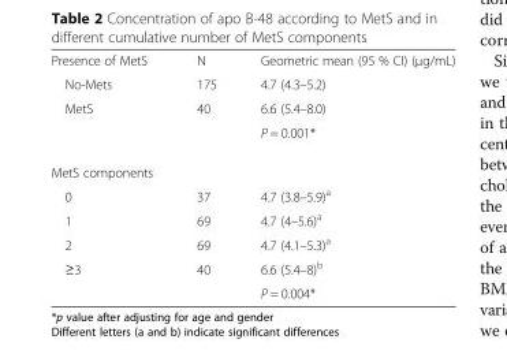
<table><tbody><tr><td>Presence of MetS</td><td>N</td><td>Geometric mean (95 % CI) (μg/mL)</td></tr><tr><td>No-Mets</td><td>175</td><td>4.7 (4.3–5.2)</td></tr><tr><td rowspan="2">MetS</td><td>40</td><td>6.6 (5.4–8.0)</td></tr><tr><td></td><td>P = 0.001*</td></tr><tr><td colspan="3">MetS components</td></tr><tr><td>0</td><td>37</td><td>4.7 (3.8–5.9)<sup>a</sup></td></tr><tr><td>1</td><td>69</td><td>4.7 (4–5.6)<sup>a</sup></td></tr><tr><td>2</td><td>69</td><td>4.7 (4.1–5.3)<sup>a</sup></td></tr><tr><td rowspan="2">≥3</td><td>40</td><td>6.6 (5.4–8)<sup>b</sup></td></tr><tr><td></td><td>P = 0.004*</td></tr></tbody></table>